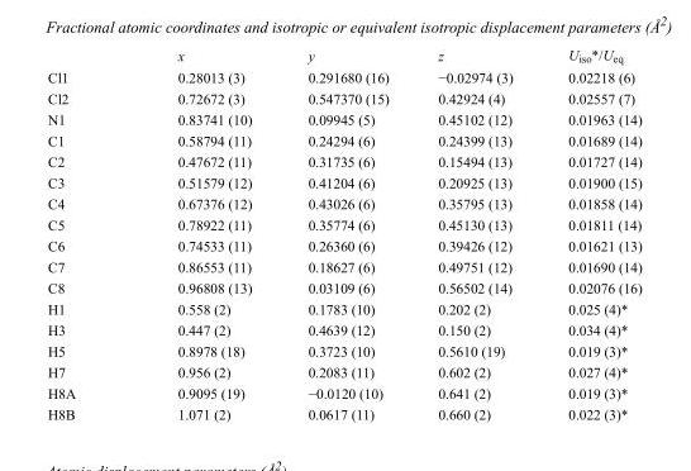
<table><thead><tr><td></td><td>x</td><td>y</td><td>z</td><td>U<sub>iso</sub>*/U<sub>eq</sub></td></tr></thead><tbody><tr><td>Cl1</td><td>0.28013 (3)</td><td>0.291680 (16)</td><td>−0.02974 (3)</td><td>0.02218 (6)</td></tr><tr><td>Cl2</td><td>0.72672 (3)</td><td>0.547370 (15)</td><td>0.42924 (4)</td><td>0.02557 (7)</td></tr><tr><td>N1</td><td>0.83741 (10)</td><td>0.09945 (5)</td><td>0.45102 (12)</td><td>0.01963 (14)</td></tr><tr><td>C1</td><td>0.58794 (11)</td><td>0.24294 (6)</td><td>0.24399 (13)</td><td>0.01689 (14)</td></tr><tr><td>C2</td><td>0.47672 (11)</td><td>0.31735 (6)</td><td>0.15494 (13)</td><td>0.01727 (14)</td></tr><tr><td>C3</td><td>0.51579 (12)</td><td>0.41204 (6)</td><td>0.20925 (13)</td><td>0.01900 (15)</td></tr><tr><td>C4</td><td>0.67376 (12)</td><td>0.43026 (6)</td><td>0.35795 (13)</td><td>0.01858 (14)</td></tr><tr><td>C5</td><td>0.78922 (11)</td><td>0.35774 (6)</td><td>0.45130 (13)</td><td>0.01811 (14)</td></tr><tr><td>C6</td><td>0.74533 (11)</td><td>0.26360 (6)</td><td>0.39426 (12)</td><td>0.01621 (13)</td></tr><tr><td>C7</td><td>0.86553 (11)</td><td>0.18627 (6)</td><td>0.49751 (12)</td><td>0.01690 (14)</td></tr><tr><td>C8</td><td>0.96808 (13)</td><td>0.03109 (6)</td><td>0.56502 (14)</td><td>0.02076 (16)</td></tr><tr><td>H1</td><td>0.558 (2)</td><td>0.1783 (10)</td><td>0.202 (2)</td><td>0.025 (4)*</td></tr><tr><td>H3</td><td>0.447 (2)</td><td>0.4639 (12)</td><td>0.150 (2)</td><td>0.034 (4)*</td></tr><tr><td>H5</td><td>0.8978 (18)</td><td>0.3723 (10)</td><td>0.5610 (19)</td><td>0.019 (3)*</td></tr><tr><td>H7</td><td>0.956 (2)</td><td>0.2083 (11)</td><td>0.602 (2)</td><td>0.027 (4)*</td></tr><tr><td>H8A</td><td>0.9095 (19)</td><td>−0.0120 (10)</td><td>0.641 (2)</td><td>0.019 (3)*</td></tr><tr><td>H8B</td><td>1.071 (2)</td><td>0.0617 (11)</td><td>0.660 (2)</td><td>0.022 (3)*</td></tr></tbody></table>